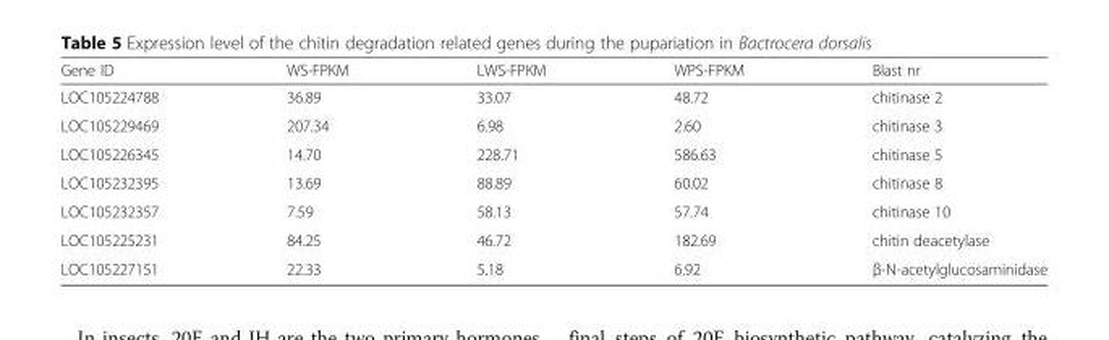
<table><thead><tr><td>Gene ID</td><td>WS-FPKM</td><td>LWS-FPKM</td><td>WPS-FPKM</td><td>Blast nr</td></tr></thead><tbody><tr><td>LOC105224788</td><td>36.89</td><td>33.07</td><td>48.72</td><td>chitinase 2</td></tr><tr><td>LOC105229469</td><td>207.34</td><td>6.98</td><td>2.60</td><td>chitinase 3</td></tr><tr><td>LOC105226345</td><td>14.70</td><td>228.71</td><td>586.63</td><td>chitinase 5</td></tr><tr><td>LOC105232395</td><td>13.69</td><td>88.89</td><td>60.02</td><td>chitinase 8</td></tr><tr><td>LOC105232357</td><td>7.59</td><td>58.13</td><td>57.74</td><td>chitinase 10</td></tr><tr><td>LOC105225231</td><td>84.25</td><td>46.72</td><td>182.69</td><td>chitin deacetylase</td></tr><tr><td>LOC105227151</td><td>22.33</td><td>5.18</td><td>6.92</td><td>β-N-acetylglucosaminidase</td></tr></tbody></table>